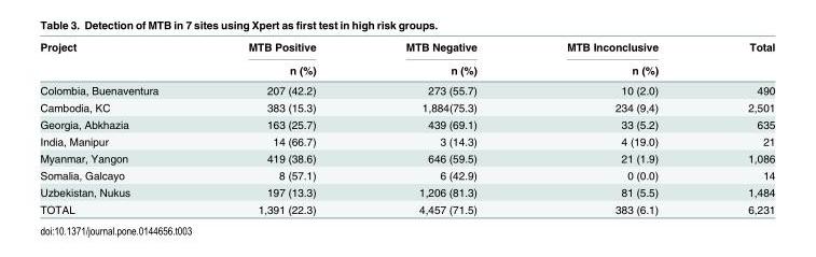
<table><thead><tr><td rowspan="2">Project</td><td rowspan="2">MTB Positive n (%)</td><td rowspan="2">MTB Negative n (%)</td><td rowspan="2">MTB Inconclusive n (%)</td><td rowspan="2">Total</td></tr><tr></tr></thead><tbody><tr><td>Colombia, Buenaventura</td><td>207 (42.2)</td><td>273 (55.7)</td><td>10 (2.0)</td><td>490</td></tr><tr><td>Cambodia, KC</td><td>383 (15.3)</td><td>1,884(75.3)</td><td>234 (9,4)</td><td>2,501</td></tr><tr><td>Georgia, Abkhazia</td><td>163 (25.7)</td><td>439 (69.1)</td><td>33 (5.2)</td><td>635</td></tr><tr><td>India, Manipur</td><td>14 (66.7)</td><td>3 (14.3)</td><td>4 (19.0)</td><td>21</td></tr><tr><td>Myanmar, Yangon</td><td>419 (38.6)</td><td>646 (59.5)</td><td>21 (1.9)</td><td>1,086</td></tr><tr><td>Somalia, Galcayo</td><td>8 (57.1)</td><td>6 (42.9)</td><td>0 (0.0)</td><td>14</td></tr><tr><td>Uzbekistan, Nukus</td><td>197 (13.3)</td><td>1,206 (81.3)</td><td>81 (5.5)</td><td>1,484</td></tr><tr><td>TOTAL</td><td>1,391 (22.3)</td><td>4,457 (71.5)</td><td>383 (6.1)</td><td>6,231</td></tr></tbody></table>